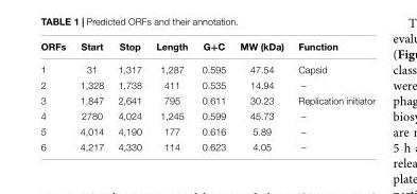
<table><thead><tr><td>ORFs</td><td>Start</td><td>Stop</td><td>Length</td><td>G+C</td><td>MW (kDa)</td><td>Function</td></tr></thead><tbody><tr><td>1</td><td>31</td><td>1,317</td><td>1,287</td><td>0.595</td><td>47.54</td><td>Capsid</td></tr><tr><td>2</td><td>1,328</td><td>1,738</td><td>411</td><td>0.535</td><td>14.94</td><td>–</td></tr><tr><td>3</td><td>1,847</td><td>2,641</td><td>795</td><td>0.611</td><td>30.23</td><td>Replication initiator</td></tr><tr><td>4</td><td>2780</td><td>4,024</td><td>1,245</td><td>0.599</td><td>45.73</td><td>–</td></tr><tr><td>5</td><td>4,014</td><td>4,190</td><td>177</td><td>0.616</td><td>5.89</td><td>–</td></tr><tr><td>6</td><td>4,217</td><td>4,330</td><td>114</td><td>0.623</td><td>4.05</td><td>–</td></tr></tbody></table>